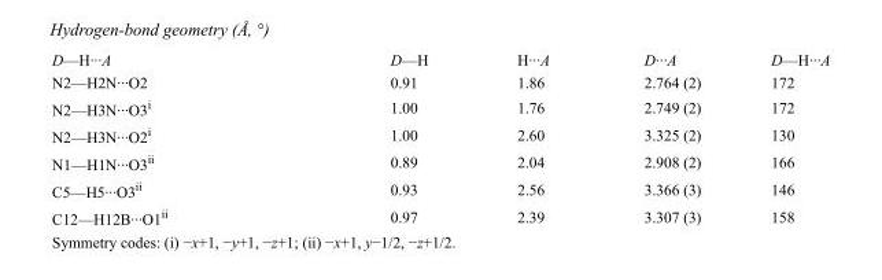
<table><tbody><tr><td>D—H···A</td><td>D—H</td><td>H···A</td><td>D···A</td><td>D—H···A</td></tr><tr><td>N2—H2N···O2</td><td>0.91</td><td>1.86</td><td>2.764 (2)</td><td>172</td></tr><tr><td>N2—H3N···O3<sup>i</sup></td><td>1.00</td><td>1.76</td><td>2.749 (2)</td><td>172</td></tr><tr><td>N2—H3N···O2<sup>i</sup></td><td>1.00</td><td>2.60</td><td>3.325 (2)</td><td>130</td></tr><tr><td>N1—H1N···O3<sup>ii</sup></td><td>0.89</td><td>2.04</td><td>2.908 (2)</td><td>166</td></tr><tr><td>C5—H5···O3<sup>ii</sup></td><td>0.93</td><td>2.56</td><td>3.366 (3)</td><td>146</td></tr><tr><td>C12—H12B···O1<sup>ii</sup></td><td>0.97</td><td>2.39</td><td>3.307 (3)</td><td>158</td></tr></tbody></table>